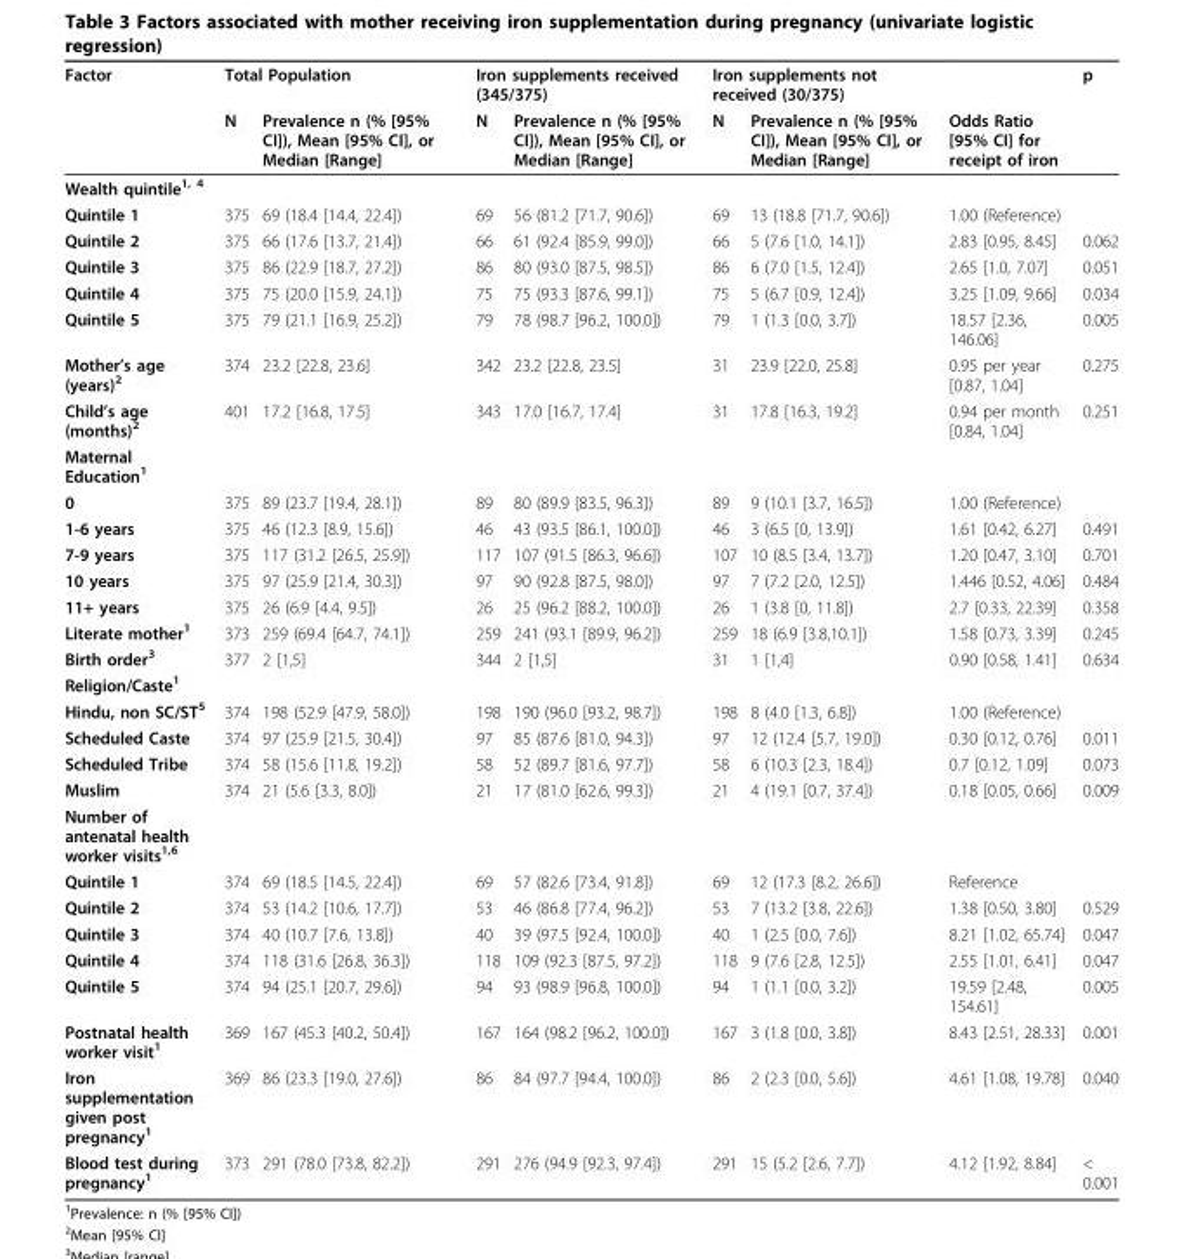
<table><thead><tr><td rowspan="2">Factor</td><td colspan="2">Total Population</td><td colspan="2">Iron supplements received (345/375)</td><td colspan="2">Iron supplements not received (30/375)</td><td rowspan="2">Odds Ratio [95% CI] for receipt of iron</td><td rowspan="2">p</td></tr><tr><td>N</td><td>Prevalence n (% [95% CI]), Mean [95% CI], or Median [Range]</td><td>N</td><td>Prevalence n (% [95% CI]), Mean [95% CI], or Median [Range]</td><td>N</td><td>Prevalence n (% [95% CI]), Mean [95% CI], or Median [Range]</td></tr></thead><tbody><tr><td colspan="9">Wealth quintile<sup>1, 4</sup></td></tr><tr><td>Quintile 1</td><td>375</td><td>69 (18.4 [14.4, 22.4])</td><td>69</td><td>56 (81.2 [71.7, 90.6])</td><td>69</td><td>13 (18.8 [71.7, 90.6])</td><td>1.00 (Reference)</td><td></td></tr><tr><td>Quintile 2</td><td>375</td><td>66 (17.6 [13.7, 21.4])</td><td>66</td><td>61 (92.4 [85.9, 99.0])</td><td>66</td><td>5 (7.6 [1.0, 14.1])</td><td>2.83 [0.95, 8.45]</td><td>0.062</td></tr><tr><td>Quintile 3</td><td>375</td><td>86 (22.9 [18.7, 27.2])</td><td>86</td><td>80 (93.0 [87.5, 98.5])</td><td>86</td><td>6 (7.0 [1.5, 12.4])</td><td>2.65 [1.0, 7.07]</td><td>0.051</td></tr><tr><td>Quintile 4</td><td>375</td><td>75 (20.0 [15.9, 24.1])</td><td>75</td><td>75 (93.3 [87.6, 99.1])</td><td>75</td><td>5 (6.7 [0.9, 12.4])</td><td>3.25 [1.09, 9.66]</td><td>0.034</td></tr><tr><td>Quintile 5</td><td>375</td><td>79 (21.1 [16.9, 25.2])</td><td>79</td><td>78 (98.7 [96.2, 100.0])</td><td>79</td><td>1 (1.3 [0.0, 3.7])</td><td>18.57 [2.36, 146.06]</td><td>0.005</td></tr><tr><td>Mother’s age (years)<sup>2</sup></td><td>374</td><td>23.2 [22.8, 23.6]</td><td>342</td><td>23.2 [22.8, 23.5]</td><td>31</td><td>23.9 [22.0, 25.8]</td><td>0.95 per year [0.87, 1.04]</td><td>0.275</td></tr><tr><td>Child’s age (months)<sup>2</sup></td><td>401</td><td>17.2 [16.8, 17.5]</td><td>343</td><td>17.0 [16.7, 17.4]</td><td>31</td><td>17.8 [16.3, 19.2]</td><td>0.94 per month [0.84, 1.04]</td><td>0.251</td></tr><tr><td colspan="9">Maternal Education<sup>1</sup></td></tr><tr><td>0</td><td>375</td><td>89 (23.7 [19.4, 28.1])</td><td>89</td><td>80 (89.9 [83.5, 96.3])</td><td>89</td><td>9 (10.1 [3.7, 16.5])</td><td>1.00 (Reference)</td><td></td></tr><tr><td>1-6 years</td><td>375</td><td>46 (12.3 [8.9, 15.6])</td><td>46</td><td>43 (93.5 [86.1, 100.0])</td><td>46</td><td>3 (6.5 [0, 13.9])</td><td>1.61 [0.42, 6.27]</td><td>0.491</td></tr><tr><td>7-9 years</td><td>375</td><td>117 (31.2 [26.5, 25.9])</td><td>117</td><td>107 (91.5 [86.3, 96.6])</td><td>107</td><td>10 (8.5 [3.4, 13.7])</td><td>1.20 [0.47, 3.10]</td><td>0.701</td></tr><tr><td>10 years</td><td>375</td><td>97 (25.9 [21.4, 30.3])</td><td>97</td><td>90 (92.8 [87.5, 98.0])</td><td>97</td><td>7 (7.2 [2.0, 12.5])</td><td>1.446 [0.52, 4.06]</td><td>0.484</td></tr><tr><td>11+ years</td><td>375</td><td>26 (6.9 [4.4, 9.5])</td><td>26</td><td>25 (96.2 [88.2, 100.0])</td><td>26</td><td>1 (3.8 [0, 11.8])</td><td>2.7 [0.33, 22.39]</td><td>0.358</td></tr><tr><td>Literate mother<sup>1</sup></td><td>373</td><td>259 (69.4 [64.7, 74.1])</td><td>259</td><td>241 (93.1 [89.9, 96.2])</td><td>259</td><td>18 (6.9 [3.8,10.1])</td><td>1.58 [0.73, 3.39]</td><td>0.245</td></tr><tr><td>Birth order<sup>3</sup></td><td>377</td><td>2 [1,5]</td><td>344</td><td>2 [1,5]</td><td>31</td><td>1 [1,4]</td><td>0.90 [0.58, 1.41]</td><td>0.634</td></tr><tr><td colspan="9">Religion/Caste<sup>1</sup></td></tr><tr><td>Hindu, non SC/ST<sup>5</sup></td><td>374</td><td>198 (52.9 [47.9, 58.0])</td><td>198</td><td>190 (96.0 [93.2, 98.7])</td><td>198</td><td>8 (4.0 [1.3, 6.8])</td><td>1.00 (Reference)</td><td></td></tr><tr><td>Scheduled Caste</td><td>374</td><td>97 (25.9 [21.5, 30.4])</td><td>97</td><td>85 (87.6 [81.0, 94.3])</td><td>97</td><td>12 (12.4 [5.7, 19.0])</td><td>0.30 [0.12, 0.76]</td><td>0.011</td></tr><tr><td>Scheduled Tribe</td><td>374</td><td>58 (15.6 [11.8, 19.2])</td><td>58</td><td>52 (89.7 [81.6, 97.7])</td><td>58</td><td>6 (10.3 [2.3, 18.4])</td><td>0.7 [0.12, 1.09]</td><td>0.073</td></tr><tr><td>Muslim</td><td>374</td><td>21 (5.6 [3.3, 8.0])</td><td>21</td><td>17 (81.0 [62.6, 99.3])</td><td>21</td><td>4 (19.1 [0.7, 37.4])</td><td>0.18 [0.05, 0.66]</td><td>0.009</td></tr><tr><td colspan="9">Number of antenatal health worker visits<sup>1,6</sup></td></tr><tr><td>Quintile 1</td><td>374</td><td>69 (18.5 [14.5, 22.4])</td><td>69</td><td>57 (82.6 [73.4, 91.8])</td><td>69</td><td>12 (17.3 [8.2, 26.6])</td><td>Reference</td><td></td></tr><tr><td>Quintile 2</td><td>374</td><td>53 (14.2 [10.6, 17.7])</td><td>53</td><td>46 (86.8 [77.4, 96.2])</td><td>53</td><td>7 (13.2 [3.8, 22.6])</td><td>1.38 [0.50, 3.80]</td><td>0.529</td></tr><tr><td>Quintile 3</td><td>374</td><td>40 (10.7 [7.6, 13.8])</td><td>40</td><td>39 (97.5 [92.4, 100.0])</td><td>40</td><td>1 (2.5 [0.0, 7.6])</td><td>8.21 [1.02, 65.74]</td><td>0.047</td></tr><tr><td>Quintile 4</td><td>374</td><td>118 (31.6 [26.8, 36.3])</td><td>118</td><td>109 (92.3 [87.5, 97.2])</td><td>118</td><td>9 (7.6 [2.8, 12.5])</td><td>2.55 [1.01, 6.41]</td><td>0.047</td></tr><tr><td>Quintile 5</td><td>374</td><td>94 (25.1 [20.7, 29.6])</td><td>94</td><td>93 (98.9 [96.8, 100.0])</td><td>94</td><td>1 (1.1 [0.0, 3.2])</td><td>19.59 [2.48, 154.61]</td><td>0.005</td></tr><tr><td>Postnatal health worker visit<sup>1</sup></td><td>369</td><td>167 (45.3 [40.2, 50.4])</td><td>167</td><td>164 (98.2 [96.2, 100.0])</td><td>167</td><td>3 (1.8 [0.0, 3.8])</td><td>8.43 [2.51, 28.33]</td><td>0.001</td></tr><tr><td>Iron supplementation given post pregnancy<sup>1</sup></td><td>369</td><td>86 (23.3 [19.0, 27.6])</td><td>86</td><td>84 (97.7 [94.4, 100.0])</td><td>86</td><td>2 (2.3 [0.0, 5.6])</td><td>4.61 [1.08, 19.78]</td><td>0.040</td></tr><tr><td>Blood test during pregnancy<sup>1</sup></td><td>373</td><td>291 (78.0 [73.8, 82.2])</td><td>291</td><td>276 (94.9 [92.3, 97.4])</td><td>291</td><td>15 (5.2 [2.6, 7.7])</td><td>4.12 [1.92, 8.84]</td><td>&lt; 0.001</td></tr></tbody></table>